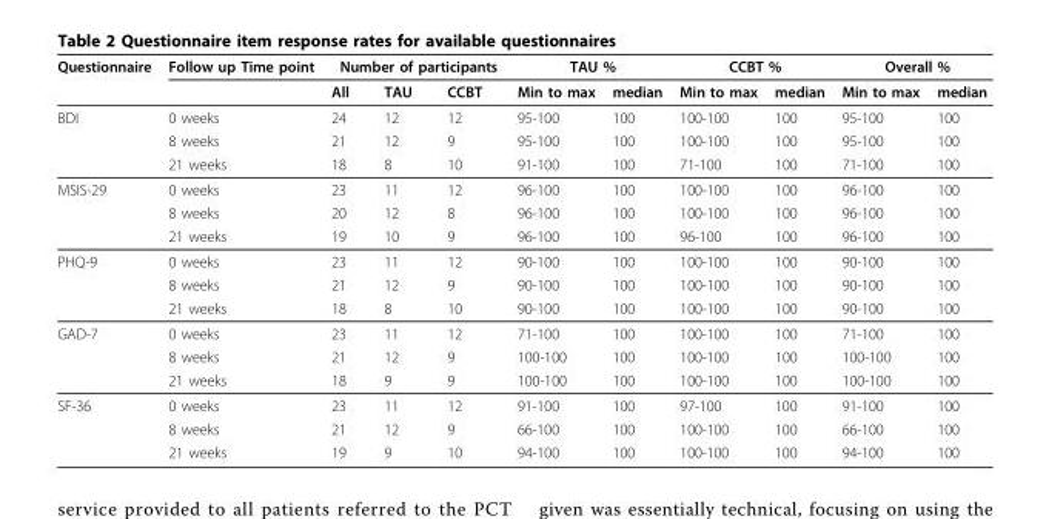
<table><thead><tr><td rowspan="2">Questionnaire</td><td rowspan="2">Follow up Time point</td><td colspan="3">Number of participants</td><td colspan="2">TAU %</td><td colspan="2">CCBT %</td><td colspan="2">Overall %</td></tr><tr><td>All</td><td>TAU</td><td>CCBT</td><td>Min to max</td><td>median</td><td>Min to max</td><td>median</td><td>Min to max</td><td>median</td></tr></thead><tbody><tr><td rowspan="3">BDI</td><td>0 weeks</td><td>24</td><td>12</td><td>12</td><td>95-100</td><td>100</td><td>100-100</td><td>100</td><td>95-100</td><td>100</td></tr><tr><td>8 weeks</td><td>21</td><td>12</td><td>9</td><td>95-100</td><td>100</td><td>100-100</td><td>100</td><td>95-100</td><td>100</td></tr><tr><td>21 weeks</td><td>18</td><td>8</td><td>10</td><td>91-100</td><td>100</td><td>71-100</td><td>100</td><td>71-100</td><td>100</td></tr><tr><td rowspan="3">MSIS-29</td><td>0 weeks</td><td>23</td><td>11</td><td>12</td><td>96-100</td><td>100</td><td>100-100</td><td>100</td><td>96-100</td><td>100</td></tr><tr><td>8 weeks</td><td>20</td><td>12</td><td>8</td><td>96-100</td><td>100</td><td>100-100</td><td>100</td><td>96-100</td><td>100</td></tr><tr><td>21 weeks</td><td>19</td><td>10</td><td>9</td><td>96-100</td><td>100</td><td>96-100</td><td>100</td><td>96-100</td><td>100</td></tr><tr><td rowspan="3">PHQ-9</td><td>0 weeks</td><td>23</td><td>11</td><td>12</td><td>90-100</td><td>100</td><td>100-100</td><td>100</td><td>90-100</td><td>100</td></tr><tr><td>8 weeks</td><td>21</td><td>12</td><td>9</td><td>90-100</td><td>100</td><td>100-100</td><td>100</td><td>90-100</td><td>100</td></tr><tr><td>21 weeks</td><td>18</td><td>8</td><td>10</td><td>90-100</td><td>100</td><td>100-100</td><td>100</td><td>90-100</td><td>100</td></tr><tr><td rowspan="3">GAD-7</td><td>0 weeks</td><td>23</td><td>11</td><td>12</td><td>71-100</td><td>100</td><td>100-100</td><td>100</td><td>71-100</td><td>100</td></tr><tr><td>8 weeks</td><td>21</td><td>12</td><td>9</td><td>100-100</td><td>100</td><td>100-100</td><td>100</td><td>100-100</td><td>100</td></tr><tr><td>21 weeks</td><td>18</td><td>9</td><td>9</td><td>100-100</td><td>100</td><td>100-100</td><td>100</td><td>100-100</td><td>100</td></tr><tr><td rowspan="3">SF-36</td><td>0 weeks</td><td>23</td><td>11</td><td>12</td><td>91-100</td><td>100</td><td>97-100</td><td>100</td><td>91-100</td><td>100</td></tr><tr><td>8 weeks</td><td>21</td><td>12</td><td>9</td><td>66-100</td><td>100</td><td>100-100</td><td>100</td><td>66-100</td><td>100</td></tr><tr><td>21 weeks</td><td>19</td><td>9</td><td>10</td><td>94-100</td><td>100</td><td>100-100</td><td>100</td><td>94-100</td><td>100</td></tr></tbody></table>